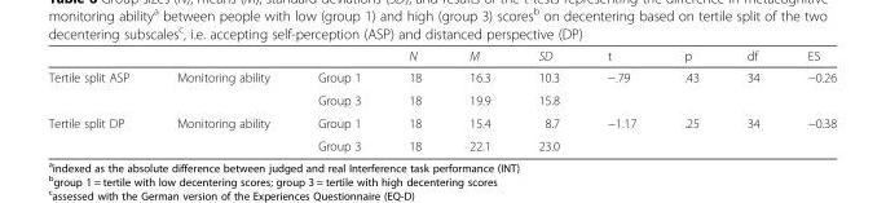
<table><thead><tr><td></td><td></td><td></td><td>N</td><td>M</td><td>SD</td><td>t</td><td>p</td><td>df</td><td>ES</td></tr></thead><tbody><tr><td rowspan="2">Tertile split ASP</td><td rowspan="2">Monitoring ability</td><td>Group 1</td><td>18</td><td>16.3</td><td>10.3</td><td rowspan="2">−.79</td><td rowspan="2">.43</td><td rowspan="2">34</td><td rowspan="2">−0.26</td></tr><tr><td>Group 3</td><td>18</td><td>19.9</td><td>15.8</td></tr><tr><td rowspan="2">Tertile split DP</td><td rowspan="2">Monitoring ability</td><td>Group 1</td><td>18</td><td>15.4</td><td>8.7</td><td rowspan="2">−1.17</td><td rowspan="2">.25</td><td rowspan="2">34</td><td rowspan="2">−0.38</td></tr><tr><td>Group 3</td><td>18</td><td>22.1</td><td>23.0</td></tr></tbody></table>